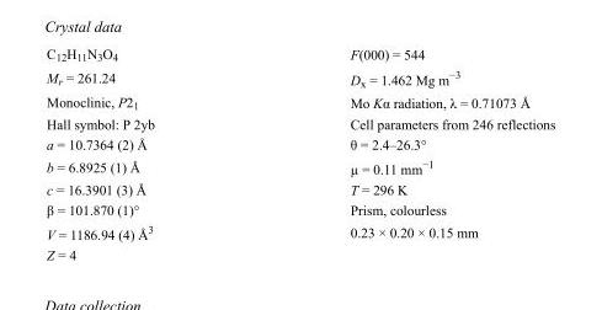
<table><tbody><tr><td>C<sub>12</sub>H<sub>11</sub>N<sub>3</sub>O<sub>4</sub></td><td>F(000) = 544</td></tr><tr><td>M<sub>r</sub> = 261.24</td><td>D<sub>x</sub> = 1.462 Mg m<sup>−3</sup></td></tr><tr><td>Monoclinic, P2<sub>1</sub></td><td>Mo Kα radiation, λ = 0.71073 Å</td></tr><tr><td>Hall symbol: P 2yb</td><td>Cell parameters from 246 reflections</td></tr><tr><td>a = 10.7364 (2) Å</td><td>θ = 2.4–26.3°</td></tr><tr><td>b = 6.8925 (1) Å</td><td>µ = 0.11 mm<sup>−1</sup></td></tr><tr><td>c = 16.3901 (3) Å</td><td>T = 296 K</td></tr><tr><td>β = 101.870 (1)°</td><td>Prism, colourless</td></tr><tr><td>V = 1186.94 (4) Å<sup>3</sup></td><td>0.23 × 0.20 × 0.15 mm</td></tr><tr><td>Z = 4</td><td></td></tr></tbody></table>